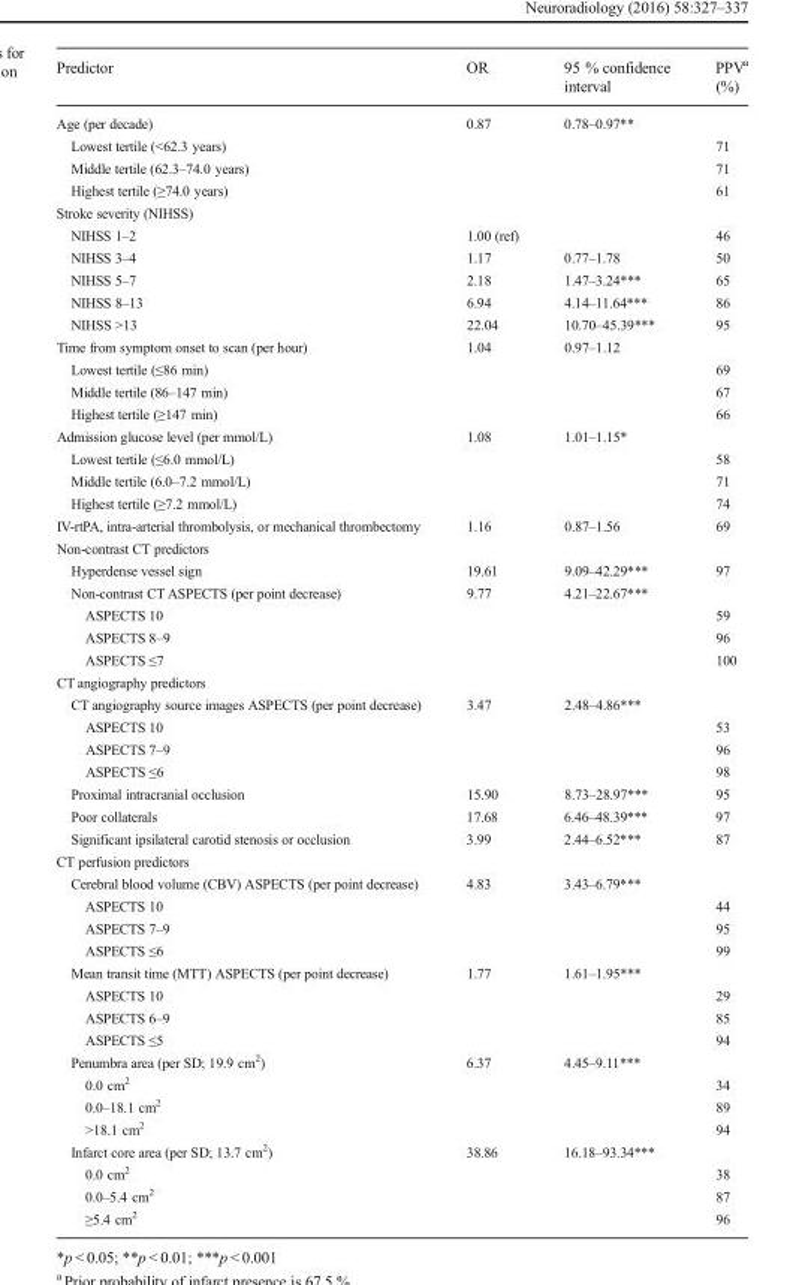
<table><thead><tr><td>Predictor</td><td>OR</td><td>95 % confidence interval</td><td>PPV<sup>a</sup> (%)</td></tr></thead><tbody><tr><td>Age (per decade)</td><td>0.87</td><td>0.78–0.97**</td><td></td></tr><tr><td>Lowest tertile (&lt;62.3 years)</td><td></td><td></td><td>71</td></tr><tr><td>Middle tertile (62.3–74.0 years)</td><td></td><td></td><td>71</td></tr><tr><td>Highest tertile (≥74.0 years)</td><td></td><td></td><td>61</td></tr><tr><td colspan="4">Stroke severity (NIHSS)</td></tr><tr><td>NIHSS 1–2</td><td>1.00 (ref)</td><td></td><td>46</td></tr><tr><td>NIHSS 3–4</td><td>1.17</td><td>0.77–1.78</td><td>50</td></tr><tr><td>NIHSS 5–7</td><td>2.18</td><td>1.47–3.24***</td><td>65</td></tr><tr><td>NIHSS 8–13</td><td>6.94</td><td>4.14–11.64***</td><td>86</td></tr><tr><td>NIHSS &gt;13</td><td>22.04</td><td>10.70–45.39***</td><td>95</td></tr><tr><td>Time from symptom onset to scan (per hour)</td><td>1.04</td><td>0.97–1.12</td><td></td></tr><tr><td>Lowest tertile (≤86 min)</td><td></td><td></td><td>69</td></tr><tr><td>Middle tertile (86–147 min)</td><td></td><td></td><td>67</td></tr><tr><td>Highest tertile (≥147 min)</td><td></td><td></td><td>66</td></tr><tr><td>Admission glucose level (per mmol/L)</td><td>1.08</td><td>1.01–1.15*</td><td></td></tr><tr><td>Lowest tertile (≤6.0 mmol/L)</td><td></td><td></td><td>58</td></tr><tr><td>Middle tertile (6.0–7.2 mmol/L)</td><td></td><td></td><td>71</td></tr><tr><td>Highest tertile (≥7.2 mmol/L)</td><td></td><td></td><td>74</td></tr><tr><td>IV-rtPA, intra-arterial thrombolysis, or mechanical thrombectomy</td><td>1.16</td><td>0.87–1.56</td><td>69</td></tr><tr><td colspan="4">Non-contrast CT predictors</td></tr><tr><td>Hyperdense vessel sign</td><td>19.61</td><td>9.09–42.29***</td><td>97</td></tr><tr><td>Non-contrast CT ASPECTS (per point decrease)</td><td>9.77</td><td>4.21–22.67***</td><td></td></tr><tr><td>ASPECTS 10</td><td></td><td></td><td>59</td></tr><tr><td>ASPECTS 8–9</td><td></td><td></td><td>96</td></tr><tr><td>ASPECTS ≤7</td><td></td><td></td><td>100</td></tr><tr><td colspan="4">CT angiography predictors</td></tr><tr><td>CT angiography source images ASPECTS (per point decrease)</td><td>3.47</td><td>2.48–4.86***</td><td></td></tr><tr><td>ASPECTS 10</td><td></td><td></td><td>53</td></tr><tr><td>ASPECTS 7–9</td><td></td><td></td><td>96</td></tr><tr><td>ASPECTS ≤6</td><td></td><td></td><td>98</td></tr><tr><td>Proximal intracranial occlusion</td><td>15.90</td><td>8.73–28.97***</td><td>95</td></tr><tr><td>Poor collaterals</td><td>17.68</td><td>6.46–48.39***</td><td>97</td></tr><tr><td>Significant ipsilateral carotid stenosis or occlusion</td><td>3.99</td><td>2.44–6.52***</td><td>87</td></tr><tr><td colspan="4">CT perfusion predictors</td></tr><tr><td>Cerebral blood volume (CBV) ASPECTS (per point decrease)</td><td>4.83</td><td>3.43–6.79***</td><td></td></tr><tr><td>ASPECTS 10</td><td></td><td></td><td>44</td></tr><tr><td>ASPECTS 7–9</td><td></td><td></td><td>95</td></tr><tr><td>ASPECTS ≤6</td><td></td><td></td><td>99</td></tr><tr><td>Mean transit time (MTT) ASPECTS (per point decrease)</td><td>1.77</td><td>1.61–1.95***</td><td></td></tr><tr><td>ASPECTS 10</td><td></td><td></td><td>29</td></tr><tr><td>ASPECTS 6–9</td><td></td><td></td><td>85</td></tr><tr><td>ASPECTS ≤5</td><td></td><td></td><td>94</td></tr><tr><td>Penumbra area (per SD; 19.9 cm<sup>2</sup>)</td><td>6.37</td><td>4.45–9.11***</td><td></td></tr><tr><td>0.0 cm<sup>2</sup></td><td></td><td></td><td>34</td></tr><tr><td>0.0–18.1 cm<sup>2</sup></td><td></td><td></td><td>89</td></tr><tr><td>&gt;18.1 cm<sup>2</sup></td><td></td><td></td><td>94</td></tr><tr><td>Infarct core area (per SD; 13.7 cm<sup>2</sup>)</td><td>38.86</td><td>16.18–93.34***</td><td></td></tr><tr><td>0.0 cm<sup>2</sup></td><td></td><td></td><td>38</td></tr><tr><td>0.0–5.4 cm<sup>2</sup></td><td></td><td></td><td>87</td></tr><tr><td>≥5.4 cm<sup>2</sup></td><td></td><td></td><td>96</td></tr></tbody></table>